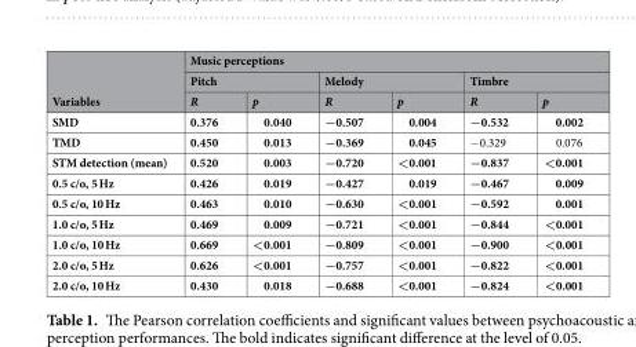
<table><thead><tr><td rowspan="3">Variables</td><td colspan="6">Music perceptions</td></tr><tr><td colspan="2">Pitch</td><td colspan="2">Melody</td><td colspan="2">Timbre</td></tr><tr><td>R</td><td>p</td><td>R</td><td>p</td><td>R</td><td>p</td></tr></thead><tbody><tr><td>SMD</td><td>0.376</td><td>0.040</td><td>−0.507</td><td>0.004</td><td>−0.532</td><td>0.002</td></tr><tr><td>TMD</td><td>0.450</td><td>0.013</td><td>−0.369</td><td>0.045</td><td>−0.329</td><td>0.076</td></tr><tr><td>STM detection (mean)</td><td>0.520</td><td>0.003</td><td>−0.720</td><td>&lt;0.001</td><td>−0.837</td><td>&lt;0.001</td></tr><tr><td>0.5 c/o, 5 Hz</td><td>0.426</td><td>0.019</td><td>−0.427</td><td>0.019</td><td>−0.467</td><td>0.009</td></tr><tr><td>0.5 c/o, 10 Hz</td><td>0.463</td><td>0.010</td><td>−0.630</td><td>&lt;0.001</td><td>−0.592</td><td>0.001</td></tr><tr><td>1.0 c/o, 5 Hz</td><td>0.469</td><td>0.009</td><td>−0.721</td><td>&lt;0.001</td><td>−0.844</td><td>&lt;0.001</td></tr><tr><td>1.0 c/o, 10 Hz</td><td>0.669</td><td>&lt;0.001</td><td>−0.809</td><td>&lt;0.001</td><td>−0.900</td><td>&lt;0.001</td></tr><tr><td>2.0 c/o, 5 Hz</td><td>0.626</td><td>&lt;0.001</td><td>−0.757</td><td>&lt;0.001</td><td>−0.822</td><td>&lt;0.001</td></tr><tr><td>2.0 c/o, 10 Hz</td><td>0.430</td><td>0.018</td><td>−0.688</td><td>&lt;0.001</td><td>−0.824</td><td>&lt;0.001</td></tr></tbody></table>